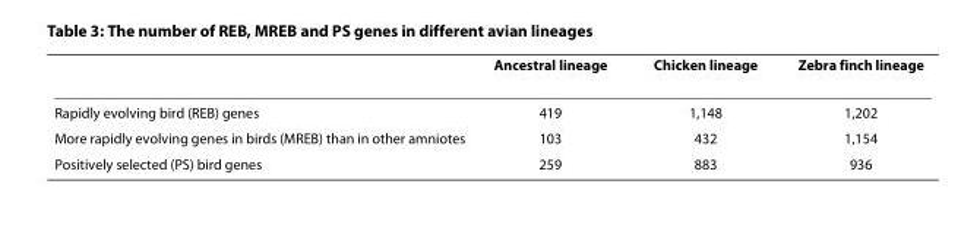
<table><thead><tr><td></td><td>Ancestral lineage</td><td>Chicken lineage</td><td>Zebra finch lineage</td></tr></thead><tbody><tr><td>Rapidly evolving bird (REB) genes</td><td>419</td><td>1,148</td><td>1,202</td></tr><tr><td>More rapidly evolving genes in birds (MREB) than in other amniotes</td><td>103</td><td>432</td><td>1,154</td></tr><tr><td>Positively selected (PS) bird genes</td><td>259</td><td>883</td><td>936</td></tr></tbody></table>